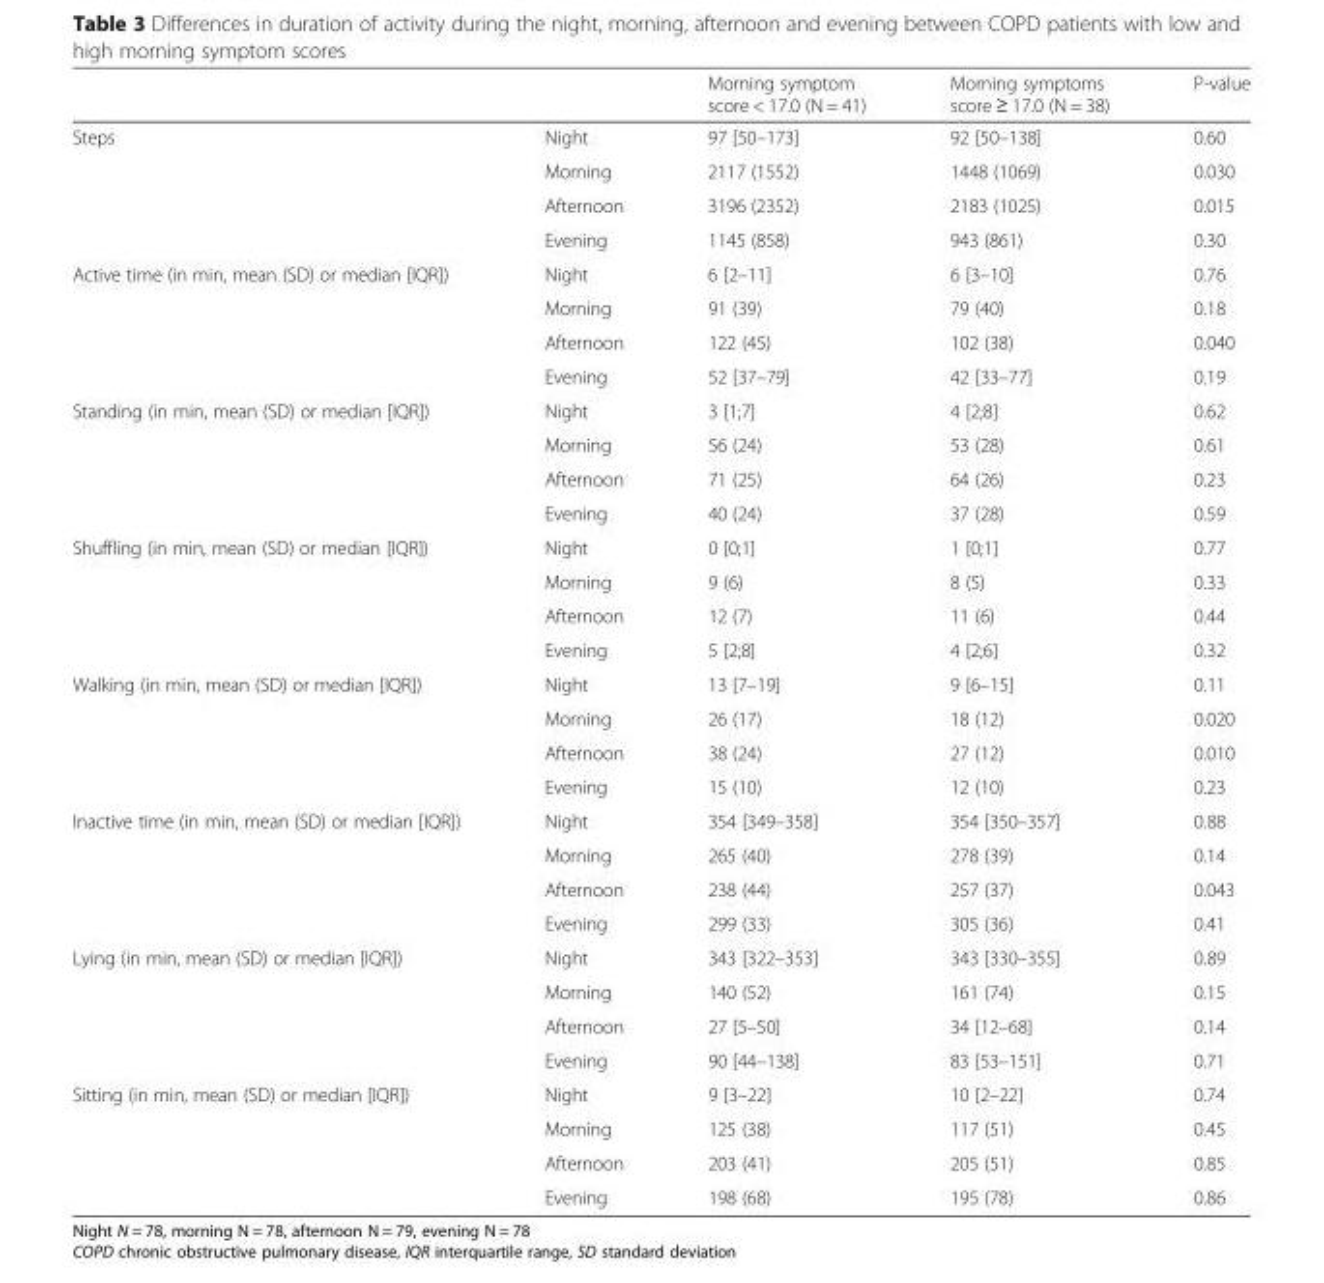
<table><thead><tr><td></td><td></td><td>Morning symptom score &lt; 17.0 (N = 41)</td><td>Morning symptoms score ≥ 17.0 (N = 38)</td><td>P-value</td></tr></thead><tbody><tr><td rowspan="4">Steps</td><td>Night</td><td>97 [50–173]</td><td>92 [50–138]</td><td>0.60</td></tr><tr><td>Morning</td><td>2117 (1552)</td><td>1448 (1069)</td><td>0.030</td></tr><tr><td>Afternoon</td><td>3196 (2352)</td><td>2183 (1025)</td><td>0.015</td></tr><tr><td>Evening</td><td>1145 (858)</td><td>943 (861)</td><td>0.30</td></tr><tr><td rowspan="4">Active time (in min, mean (SD) or median [IQR])</td><td>Night</td><td>6 [2–11]</td><td>6 [3–10]</td><td>0.76</td></tr><tr><td>Morning</td><td>91 (39)</td><td>79 (40)</td><td>0.18</td></tr><tr><td>Afternoon</td><td>122 (45)</td><td>102 (38)</td><td>0.040</td></tr><tr><td>Evening</td><td>52 [37–79]</td><td>42 [33–77]</td><td>0.19</td></tr><tr><td rowspan="4">Standing (in min, mean (SD) or median [IQR])</td><td>Night</td><td>3 [1;7]</td><td>4 [2;8]</td><td>0.62</td></tr><tr><td>Morning</td><td>56 (24)</td><td>53 (28)</td><td>0.61</td></tr><tr><td>Afternoon</td><td>71 (25)</td><td>64 (26)</td><td>0.23</td></tr><tr><td>Evening</td><td>40 (24)</td><td>37 (28)</td><td>0.59</td></tr><tr><td rowspan="4">Shuffling (in min, mean (SD) or median [IQR])</td><td>Night</td><td>0 [0;1]</td><td>1 [0;1]</td><td>0.77</td></tr><tr><td>Morning</td><td>9 (6)</td><td>8 (5)</td><td>0.33</td></tr><tr><td>Afternoon</td><td>12 (7)</td><td>11 (6)</td><td>0.44</td></tr><tr><td>Evening</td><td>5 [2;8]</td><td>4 [2;6]</td><td>0.32</td></tr><tr><td rowspan="4">Walking (in min, mean (SD) or median [IQR])</td><td>Night</td><td>13 [7–19]</td><td>9 [6–15]</td><td>0.11</td></tr><tr><td>Morning</td><td>26 (17)</td><td>18 (12)</td><td>0.020</td></tr><tr><td>Afternoon</td><td>38 (24)</td><td>27 (12)</td><td>0.010</td></tr><tr><td>Evening</td><td>15 (10)</td><td>12 (10)</td><td>0.23</td></tr><tr><td rowspan="4">Inactive time (in min, mean (SD) or median [IQR])</td><td>Night</td><td>354 [349–358]</td><td>354 [350–357]</td><td>0.88</td></tr><tr><td>Morning</td><td>265 (40)</td><td>278 (39)</td><td>0.14</td></tr><tr><td>Afternoon</td><td>238 (44)</td><td>257 (37)</td><td>0.043</td></tr><tr><td>Evening</td><td>299 (33)</td><td>305 (36)</td><td>0.41</td></tr><tr><td rowspan="4">Lying (in min, mean (SD) or median [IQR])</td><td>Night</td><td>343 [322–353]</td><td>343 [330–355]</td><td>0.89</td></tr><tr><td>Morning</td><td>140 (52)</td><td>161 (74)</td><td>0.15</td></tr><tr><td>Afternoon</td><td>27 [5–50]</td><td>34 [12–68]</td><td>0.14</td></tr><tr><td>Evening</td><td>90 [44–138]</td><td>83 [53–151]</td><td>0.71</td></tr><tr><td rowspan="4">Sitting (in min, mean (SD) or median [IQR])</td><td>Night</td><td>9 [3–22]</td><td>10 [2–22]</td><td>0.74</td></tr><tr><td>Morning</td><td>125 (38)</td><td>117 (51)</td><td>0.45</td></tr><tr><td>Afternoon</td><td>203 (41)</td><td>205 (51)</td><td>0.85</td></tr><tr><td>Evening</td><td>198 (68)</td><td>195 (78)</td><td>0.86</td></tr></tbody></table>